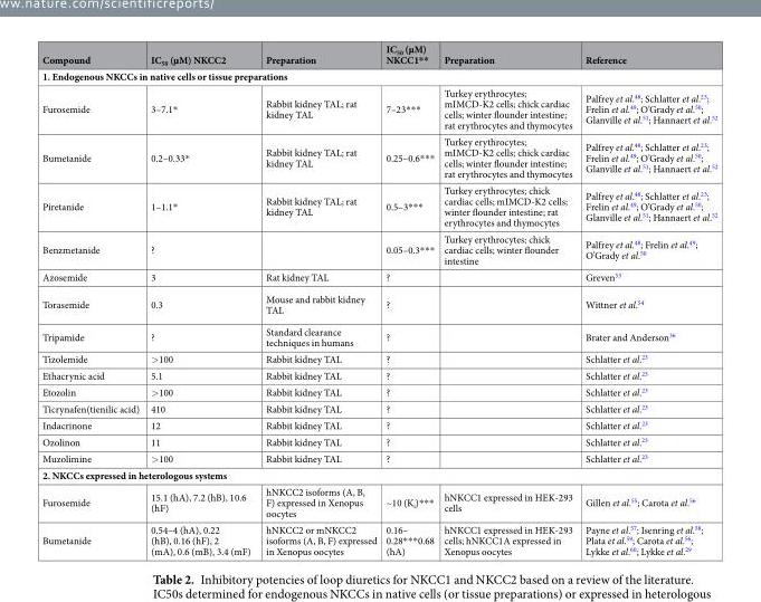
<table><thead><tr><td>Compound</td><td>IC<sub>50</sub> (µM) NKCC2</td><td>Preparation</td><td>IC<sub>50</sub> (µM) NKCC1**</td><td>Preparation</td><td>Reference</td></tr></thead><tbody><tr><td colspan="6">1. Endogenous NKCCs in native cells or tissue preparations</td></tr><tr><td>Furosemide</td><td>3–7.1*</td><td>Rabbit kidney TAL; rat kidney TAL</td><td>7–23***</td><td>Turkey erythrocytes; mIMCD-K2 cells; chick cardiac cells; winter flounder intestine; rat erythrocytes and thymocytes</td><td>Palfrey et al.<sup>48</sup>; Schlatter et al.<sup>23</sup>; Frelin et al.<sup>49</sup>; O’Grady et al.<sup>50</sup>; Glanville et al.<sup>51</sup>; Hannaert et al.<sup>52</sup></td></tr><tr><td>Bumetanide</td><td>0.2–0.33*</td><td>Rabbit kidney TAL; rat kidney TAL</td><td>0.25–0.6***</td><td>Turkey erythrocytes; mIMCD-K2 cells; chick cardiac cells; winter flounder intestine; rat erythrocytes and thymocytes</td><td>Palfrey et al.<sup>48</sup>; Schlatter et al.<sup>23</sup>; Frelin et al.<sup>49</sup>; O’Grady et al.<sup>50</sup>; Glanville et al.<sup>51</sup>; Hannaert et al.<sup>52</sup></td></tr><tr><td>Piretanide</td><td>1–1.1*</td><td>Rabbit kidney TAL; rat kidney TAL</td><td>0.5–3***</td><td>Turkey erythrocytes; chick cardiac cells; mIMCD-K2 cells; winter flounder intestine; rat erythrocytes and thymocytes</td><td>Palfrey et al.<sup>48</sup>; Schlatter et al.<sup>23</sup>; Frelin et al.<sup>49</sup>; O’Grady et al.<sup>50</sup>; Glanville et al.<sup>51</sup>; Hannaert et al.<sup>52</sup></td></tr><tr><td>Benzmetanide</td><td>?</td><td></td><td>0.05–0.3***</td><td>Turkey erythrocytes; chick cardiac cells; winter flounder intestine</td><td>Palfrey et al.<sup>48</sup>; Frelin et al.<sup>49</sup>; O’Grady et al.<sup>50</sup></td></tr><tr><td>Azosemide</td><td>3</td><td>Rat kidney TAL</td><td>?</td><td></td><td>Greven<sup>53</sup></td></tr><tr><td>Torasemide</td><td>0.3</td><td>Mouse and rabbit kidney TAL</td><td>?</td><td></td><td>Wittner et al.<sup>54</sup></td></tr><tr><td>Tripamide</td><td>?</td><td>Standard clearance techniques in humans</td><td>?</td><td></td><td>Brater and Anderson<sup>36</sup></td></tr><tr><td>Tizolemide</td><td>&gt;100</td><td>Rabbit kidney TAL</td><td>?</td><td></td><td>Schlatter et al.<sup>23</sup></td></tr><tr><td>Ethacrynic acid</td><td>5.1</td><td>Rabbit kidney TAL</td><td>?</td><td></td><td>Schlatter et al.<sup>23</sup></td></tr><tr><td>Etozolin</td><td>&gt;100</td><td>Rabbit kidney TAL</td><td>?</td><td></td><td>Schlatter et al.<sup>23</sup></td></tr><tr><td>Ticrynafen(tienilic acid)</td><td>410</td><td>Rabbit kidney TAL</td><td>?</td><td></td><td>Schlatter et al.<sup>23</sup></td></tr><tr><td>Indacrinone</td><td>12</td><td>Rabbit kidney TAL</td><td>?</td><td></td><td>Schlatter et al.<sup>23</sup></td></tr><tr><td>Ozolinon</td><td>11</td><td>Rabbit kidney TAL</td><td>?</td><td></td><td>Schlatter et al.<sup>23</sup></td></tr><tr><td>Muzolimine</td><td>&gt;100</td><td>Rabbit kidney TAL</td><td>?</td><td></td><td>Schlatter et al.<sup>23</sup></td></tr><tr><td colspan="6">2. NKCCs expressed in heterologous systems</td></tr><tr><td>Furosemide</td><td>15.1 (hA), 7.2 (hB), 10.6 (hF)</td><td>hNKCC2 isoforms (A, B, F) expressed in Xenopus oocytes</td><td>~10 (K<sub>i</sub>)***</td><td>hNKCC1 expressed in HEK-293 cells</td><td>Gillen et al.<sup>55</sup>; Carota et al.<sup>56</sup></td></tr><tr><td>Bumetanide</td><td>0.54–4 (hA), 0.22 (hB), 0.16 (hF), 2 (mA), 0.6 (mB), 3.4 (mF)</td><td>hNKCC2 or mNKCC2 isoforms (A, B, F) expressed in Xenopus oocytes</td><td>0.16– 0.28***0.68 (hA)</td><td>hNKCC1 expressed in HEK-293 cells; hNKCC1A expressed in Xenopus oocytes</td><td>Payne et al.<sup>57</sup>; Isenring et al.<sup>58</sup>; Plata et al.<sup>59</sup>; Carota et al.<sup>56</sup>; Lykke et al.<sup>60</sup>; Lykke et al.<sup>29</sup></td></tr></tbody></table>